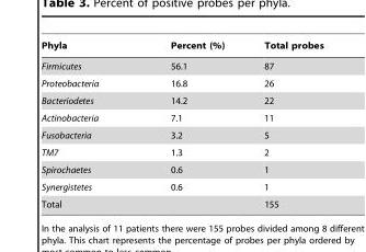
<table><thead><tr><td>Phyla</td><td>Percent (%)</td><td>Total probes</td></tr></thead><tbody><tr><td>Firmicutes</td><td>56.1</td><td>87</td></tr><tr><td>Proteobacteria</td><td>16.8</td><td>26</td></tr><tr><td>Bacteriodetes</td><td>14.2</td><td>22</td></tr><tr><td>Actinobacteria</td><td>7.1</td><td>11</td></tr><tr><td>Fusobacteria</td><td>3.2</td><td>5</td></tr><tr><td>TM7</td><td>1.3</td><td>2</td></tr><tr><td>Spirochaetes</td><td>0.6</td><td>1</td></tr><tr><td>Synergistetes</td><td>0.6</td><td>1</td></tr><tr><td>Total</td><td></td><td>155</td></tr></tbody></table>